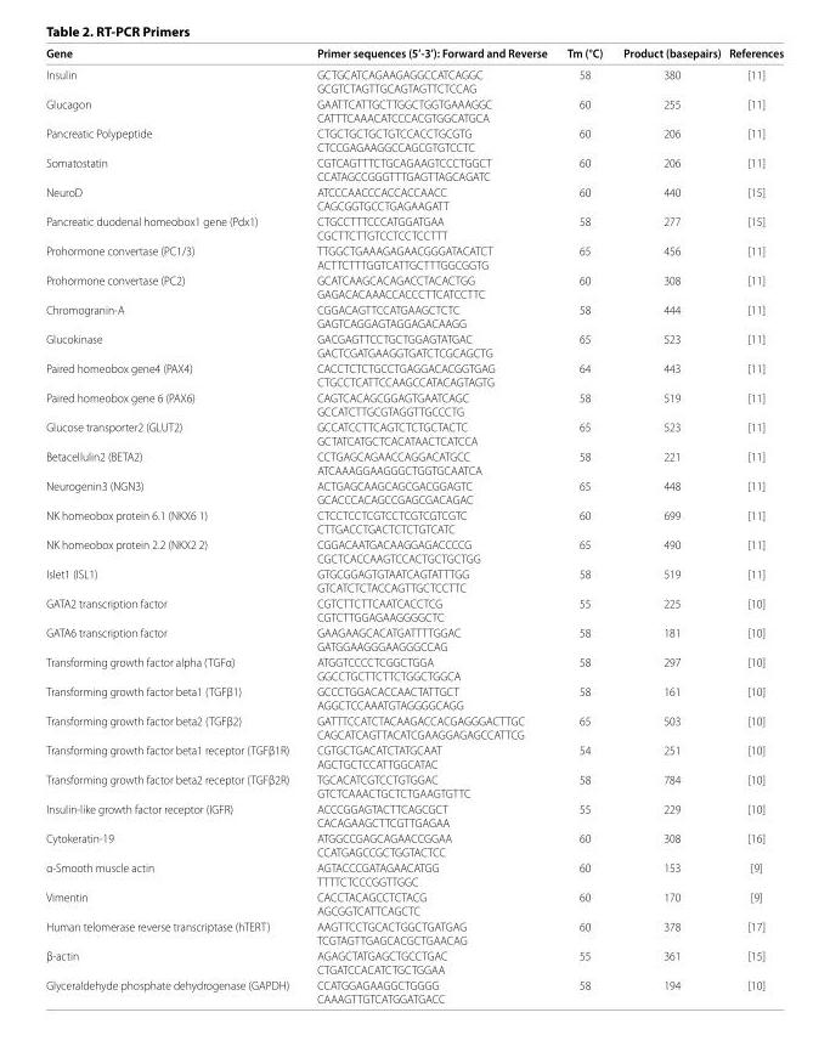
<table><thead><tr><td>Gene</td><td>Primer sequences (5’-3’): Forward and Reverse</td><td>Tm (°C)</td><td>Product (basepairs)</td><td>References</td></tr></thead><tbody><tr><td>Insulin</td><td>GCTGCATCAGAAGAGGCCATCAGGC GCGTCTAGTTGCAGTAGTTCTCCAG</td><td>58</td><td>380</td><td>[11]</td></tr><tr><td>Glucagon</td><td>GAATTCATTGCTTGGCTGGTGAAAGGC CATTTCAAACATCCCACGTGGCATGCA</td><td>60</td><td>255</td><td>[11]</td></tr><tr><td>Pancreatic Polypeptide</td><td>CTGCTGCTGCTGTCCACCTGCGTG CTCCGAGAAGGCCAGCGTGTCCTC</td><td>60</td><td>206</td><td>[11]</td></tr><tr><td>Somatostatin</td><td>CGTCAGTTTCTGCAGAAGTCCCTGGCT CCATAGCCGGGTTTGAGTTAGCAGATC</td><td>60</td><td>206</td><td>[11]</td></tr><tr><td>NeuroD</td><td>ATCCCAACCCACCACCAACC CAGCGGTGCCTGAGAAGATT</td><td>60</td><td>440</td><td>[15]</td></tr><tr><td>Pancreatic duodenal homeobox1 gene (Pdx1)</td><td>CTGCCTTTCCCATGGATGAA CGCTTCTTGTCCTCCTCCTTT</td><td>58</td><td>277</td><td>[15]</td></tr><tr><td>Prohormone convertase (PC1/3)</td><td>TTGGCTGAAAGAGAACGGGATACATCT ACTTCTTTGGTCATTGCTTTGGCGGTG</td><td>65</td><td>456</td><td>[11]</td></tr><tr><td>Prohormone convertase (PC2)</td><td>GCATCAAGCACAGACCTACACTGG GAGACACAAACCACCCTTCATCCTTC</td><td>60</td><td>308</td><td>[11]</td></tr><tr><td>Chromogranin-A</td><td>CGGACAGTTCCATGAAGCTCTC GAGTCAGGAGTAGGAGACAAGG</td><td>58</td><td>444</td><td>[11]</td></tr><tr><td>Glucokinase</td><td>GACGAGTTCCTGCTGGAGTATGAC GACTCGATGAAGGTGATCTCGCAGCTG</td><td>65</td><td>523</td><td>[11]</td></tr><tr><td>Paired homeobox gene4 (PAX4)</td><td>CACCTCTCTGCCTGAGGACACGGTGAG CTGCCTCATTCCAAGCCATACAGTAGTG</td><td>64</td><td>443</td><td>[11]</td></tr><tr><td>Paired homeobox gene 6 (PAX6)</td><td>CAGTCACAGCGGAGTGAATCAGC GCCATCTTGCGTAGGTTGCCCTG</td><td>58</td><td>519</td><td>[11]</td></tr><tr><td>Glucose transporter2 (GLUT2)</td><td>GCCATCCTTCAGTCTCTGCTACTC GCTATCATGCTCACATAACTCATCCA</td><td>65</td><td>523</td><td>[11]</td></tr><tr><td>Betacellulin2 (BETA2)</td><td>CCTGAGCAGAACCAGGACATGCC ATCAAAGGAAGGGCTGGTGCAATCA</td><td>58</td><td>221</td><td>[11]</td></tr><tr><td>Neurogenin3 (NGN3)</td><td>ACTGAGCAAGCAGCGACGGAGTC GCACCCACAGCCGAGCGACAGAC</td><td>65</td><td>448</td><td>[11]</td></tr><tr><td>NK homeobox protein 6.1 (NKX6 1)</td><td>CTCCTCCTCGTCCTCGTCGTCGTC CTTGACCTGACTCTCTGTCATC</td><td>60</td><td>699</td><td>[11]</td></tr><tr><td>NK homeobox protein 2.2 (NKX2 2)</td><td>CGGACAATGACAAGGAGACCCCG CGCTCACCAAGTCCACTGCTGCTGG</td><td>65</td><td>490</td><td>[11]</td></tr><tr><td>Islet1 (ISL1)</td><td>GTGCGGAGTGTAATCAGTATTTGG GTCATCTCTACCAGTTGCTCCTTC</td><td>58</td><td>519</td><td>[11]</td></tr><tr><td>GATA2 transcription factor</td><td>CGTCTTCTTCAATCACCTCG CGTCTTGGAGAAGGGGCTC</td><td>55</td><td>225</td><td>[10]</td></tr><tr><td>GATA6 transcription factor</td><td>GAAGAAGCACATGATTTTGGAC GATGGAAGGGAAGGGCCAG</td><td>58</td><td>181</td><td>[10]</td></tr><tr><td>Transforming growth factor alpha (TGFα)</td><td>ATGGTCCCCTCGGCTGGA GGCCTGCTTCTTCTGGCTGGCA</td><td>58</td><td>297</td><td>[10]</td></tr><tr><td>Transforming growth factor beta1 (TGFβ1)</td><td>GCCCTGGACACCAACTATTGCT AGGCTCCAAATGTAGGGGCAGG</td><td>58</td><td>161</td><td>[10]</td></tr><tr><td>Transforming growth factor beta2 (TGFβ2)</td><td>GATTTCCATCTACAAGACCACGAGGGACTTGC CAGCATCAGTTACATCGAAGGAGAGCCATTCG</td><td>65</td><td>503</td><td>[10]</td></tr><tr><td>Transforming growth factor beta1 receptor (TGFβ1R)</td><td>CGTGCTGACATCTATGCAAT AGCTGCTCCATTGGCATAC</td><td>54</td><td>251</td><td>[10]</td></tr><tr><td>Transforming growth factor beta2 receptor (TGFβ2R)</td><td>TGCACATCGTCCTGTGGAC GTCTCAAACTGCTCTGAAGTGTTC</td><td>58</td><td>784</td><td>[10]</td></tr><tr><td>Insulin-like growth factor receptor (IGFR)</td><td>ACCCGGAGTACTTCAGCGCT CACAGAAGCTTCGTTGAGAA</td><td>55</td><td>229</td><td>[10]</td></tr><tr><td>Cytokeratin-19</td><td>ATGGCCGAGCAGAACCGGAA CCATGAGCCGCTGGTACTCC</td><td>60</td><td>308</td><td>[16]</td></tr><tr><td>α-Smooth muscle actin</td><td>AGTACCCGATAGAACATGG TTTTCTCCCGGTTGGC</td><td>60</td><td>153</td><td>[9]</td></tr><tr><td>Vimentin</td><td>CACCTACAGCCTCTACG AGCGGTCATTCAGCTC</td><td>60</td><td>170</td><td>[9]</td></tr><tr><td>Human telomerase reverse transcriptase (hTERT)</td><td>AAGTTCCTGCACTGGCTGATGAG TCGTAGTTGAGCACGCTGAACAG</td><td>60</td><td>378</td><td>[17]</td></tr><tr><td>β-actin</td><td>AGAGCTATGAGCTGCCTGAC CTGATCCACATCTGCTGGAA</td><td>55</td><td>361</td><td>[15]</td></tr><tr><td>Glyceraldehyde phosphate dehydrogenase (GAPDH)</td><td>CCATGGAGAAGGCTGGGG CAAAGTTGTCATGGATGACC</td><td>58</td><td>194</td><td>[10]</td></tr></tbody></table>